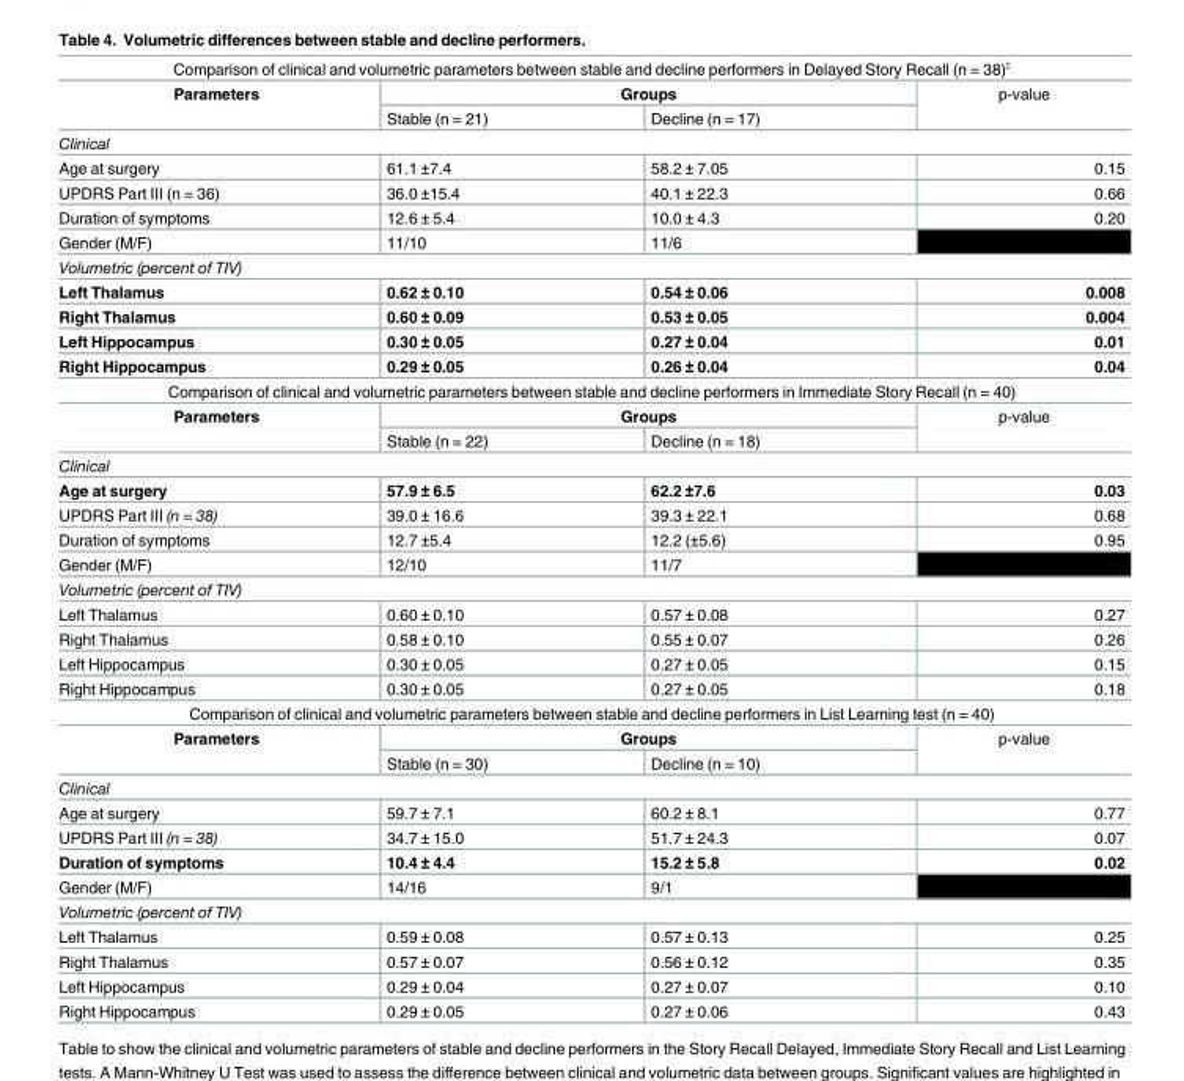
<table><tbody><tr><td colspan="4">Comparison of clinical and volumetric parameters between stable and decline performers in Delayed Story Recall (n = 38)<sup>♮</sup></td></tr><tr><td rowspan="2">Parameters</td><td colspan="2">Groups</td><td rowspan="2">p-value</td></tr><tr><td>Stable (n = 21)</td><td>Decline (n = 17)</td></tr><tr><td colspan="4">Clinical</td></tr><tr><td>Age at surgery</td><td>61.1 ±7.4</td><td>58.2 ± 7.05</td><td>0.15</td></tr><tr><td>UPDRS Part III (n = 36)</td><td>36.0 ±15.4</td><td>40.1 ± 22.3</td><td>0.66</td></tr><tr><td>Duration of symptoms</td><td>12.6 ± 5.4</td><td>10.0 ± 4.3</td><td>0.20</td></tr><tr><td>Gender (M/F)</td><td>11/10</td><td>11/6</td><td></td></tr><tr><td colspan="4">Volumetric (percent of TIV)</td></tr><tr><td>Left Thalamus</td><td>0.62 ± 0.10</td><td>0.54 ± 0.06</td><td>0.008</td></tr><tr><td>Right Thalamus</td><td>0.60 ± 0.09</td><td>0.53 ± 0.05</td><td>0.004</td></tr><tr><td>Left Hippocampus</td><td>0.30 ± 0.05</td><td>0.27 ± 0.04</td><td>0.01</td></tr><tr><td>Right Hippocampus</td><td>0.29 ± 0.05</td><td>0.26 ± 0.04</td><td>0.04</td></tr><tr><td colspan="4">Comparison of clinical and volumetric parameters between stable and decline performers in Immediate Story Recall (n = 40)</td></tr><tr><td rowspan="2">Parameters</td><td colspan="2">Groups</td><td rowspan="2">p-value</td></tr><tr><td>Stable (n = 22)</td><td>Decline (n = 18)</td></tr><tr><td colspan="4">Clinical</td></tr><tr><td>Age at surgery</td><td>57.9 ± 6.5</td><td>62.2 ±7.6</td><td>0.03</td></tr><tr><td>UPDRS Part III (n = 38)</td><td>39.0 ± 16.6</td><td>39.3 ± 22.1</td><td>0.68</td></tr><tr><td>Duration of symptoms</td><td>12.7 ±5.4</td><td>12.2 (±5.6)</td><td>0.95</td></tr><tr><td>Gender (M/F)</td><td>12/10</td><td>11/7</td><td></td></tr><tr><td colspan="4">Volumetric (percent of TIV)</td></tr><tr><td>Left Thalamus</td><td>0.60 ± 0.10</td><td>0.57 ± 0.08</td><td>0.27</td></tr><tr><td>Right Thalamus</td><td>0.58 ± 0.10</td><td>0.55 ± 0.07</td><td>0.26</td></tr><tr><td>Left Hippocampus</td><td>0.30 ± 0.05</td><td>0.27 ± 0.05</td><td>0.15</td></tr><tr><td>Right Hippocampus</td><td>0.30 ± 0.05</td><td>0.27 ± 0.05</td><td>0.18</td></tr><tr><td colspan="4">Comparison of clinical and volumetric parameters between stable and decline performers in List Learning test (n = 40)</td></tr><tr><td rowspan="2">Parameters</td><td colspan="2">Groups</td><td rowspan="2">p-value</td></tr><tr><td>Stable (n = 30)</td><td>Decline (n = 10)</td></tr><tr><td colspan="4">Clinical</td></tr><tr><td>Age at surgery</td><td>59.7 ± 7.1</td><td>60.2 ± 8.1</td><td>0.77</td></tr><tr><td>UPDRS Part III (n = 38)</td><td>34.7 ± 15.0</td><td>51.7 ± 24.3</td><td>0.07</td></tr><tr><td>Duration of symptoms</td><td>10.4 ± 4.4</td><td>15.2 ± 5.8</td><td>0.02</td></tr><tr><td>Gender (M/F)</td><td>14/16</td><td>9/1</td><td></td></tr><tr><td colspan="4">Volumetric (percent of TIV)</td></tr><tr><td>Left Thalamus</td><td>0.59 ± 0.08</td><td>0.57 ± 0.13</td><td>0.25</td></tr><tr><td>Right Thalamus</td><td>0.57 ± 0.07</td><td>0.56 ± 0.12</td><td>0.35</td></tr><tr><td>Left Hippocampus</td><td>0.29 ± 0.04</td><td>0.27 ± 0.07</td><td>0.10</td></tr><tr><td>Right Hippocampus</td><td>0.29 ± 0.05</td><td>0.27 ± 0.06</td><td>0.43</td></tr></tbody></table>